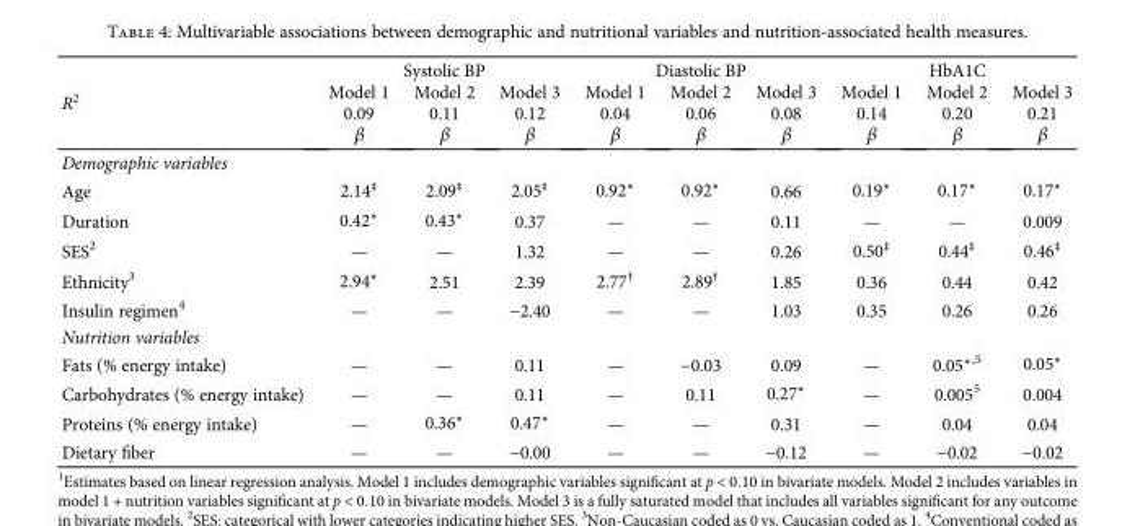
<table><thead><tr><td rowspan="4">R<sup>2</sup></td><td colspan="3">Systolic BP</td><td colspan="3">Diastolic BP</td><td colspan="3">HbA1C</td></tr><tr><td rowspan="3">Model 1 0.09 β</td><td rowspan="3">Model 2 0.11 β</td><td rowspan="3">Model 3 0.12 β</td><td rowspan="3">Model 1 0.04 β</td><td rowspan="3">Model 2 0.06 β</td><td rowspan="3">Model 3 0.08 β</td><td rowspan="3">Model 1 0.14 β</td><td rowspan="3">Model 2 0.20 β</td><td rowspan="3">Model 3 0.21 β</td></tr><tr></tr><tr></tr></thead><tbody><tr><td colspan="10">Demographic variables</td></tr><tr><td>Age</td><td>2.14<sup>‡</sup></td><td>2.09<sup>‡</sup></td><td>2.05<sup>‡</sup></td><td>0.92∗</td><td>0.92∗</td><td>0.66</td><td>0.19∗</td><td>0.17∗</td><td>0.17∗</td></tr><tr><td>Duration</td><td>0.42∗</td><td>0.43∗</td><td>0.37</td><td>—</td><td>—</td><td>0.11</td><td>—</td><td>—</td><td>0.009</td></tr><tr><td>SES<sup>2</sup></td><td>—</td><td>—</td><td>1.32</td><td>—</td><td>—</td><td>0.26</td><td>0.50<sup>‡</sup></td><td>0.44<sup>‡</sup></td><td>0.46<sup>‡</sup></td></tr><tr><td>Ethnicity<sup>3</sup></td><td>2.94∗</td><td>2.51</td><td>2.39</td><td>2.77<sup>†</sup></td><td>2.89<sup>†</sup></td><td>1.85</td><td>0.36</td><td>0.44</td><td>0.42</td></tr><tr><td>Insulin regimen<sup>4</sup></td><td>—</td><td>—</td><td>−2.40</td><td>—</td><td>—</td><td>1.03</td><td>0.35</td><td>0.26</td><td>0.26</td></tr><tr><td colspan="10">Nutrition variables</td></tr><tr><td>Fats (% energy intake)</td><td>—</td><td>—</td><td>0.11</td><td>—</td><td>−0.03</td><td>0.09</td><td>—</td><td>0.05<sup>∗,5</sup></td><td>0.05∗</td></tr><tr><td>Carbohydrates (% energy intake)</td><td>—</td><td>—</td><td>0.11</td><td>—</td><td>0.11</td><td>0.27∗</td><td>—</td><td>0.005<sup>5</sup></td><td>0.004</td></tr><tr><td>Proteins (% energy intake)</td><td>—</td><td>0.36∗</td><td>0.47∗</td><td>—</td><td>—</td><td>0.31</td><td>—</td><td>0.04</td><td>0.04</td></tr><tr><td>Dietary fiber</td><td>—</td><td>—</td><td>−0.00</td><td>—</td><td>—</td><td>−0.12</td><td>—</td><td>−0.02</td><td>−0.02</td></tr></tbody></table>